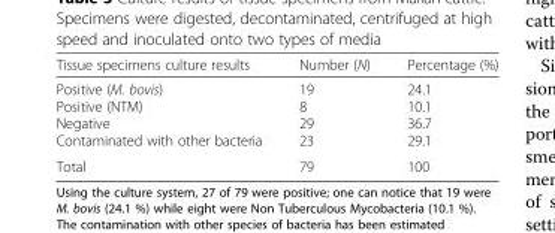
<table><thead><tr><td>Tissue specimens culture results</td><td>Number (N)</td><td>Percentage (%)</td></tr></thead><tbody><tr><td>Positive (M. bovis) Positive (NTM) Negative Contaminated with other bacteria</td><td>19 8 29 23</td><td>24.1 10.1 36.7 29.1</td></tr><tr><td>Total</td><td>79</td><td>100</td></tr></tbody></table>